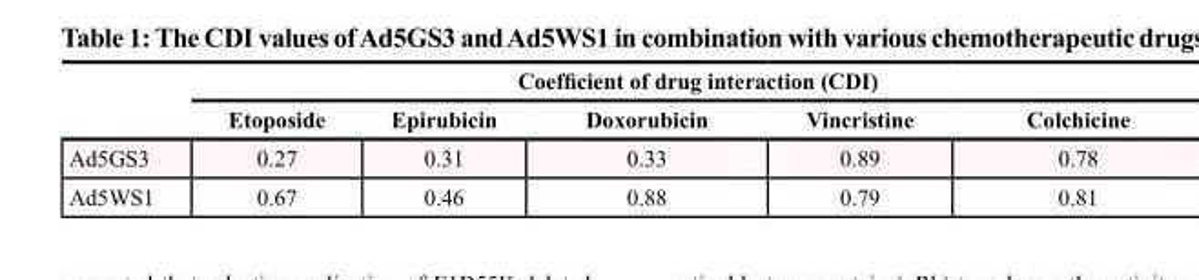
<table><thead><tr><td rowspan="2"></td><td colspan="5">Coefficient of drug interaction (CDI)</td></tr><tr><td>Etoposide</td><td>Epirubicin</td><td>Doxorubicin</td><td>Vincristine</td><td>Colchicine</td></tr></thead><tbody><tr><td>Ad5GS3</td><td>0.27</td><td>0.31</td><td>0.33</td><td>0.89</td><td>0.78</td></tr><tr><td>Ad5WS1</td><td>0.67</td><td>0.46</td><td>0.88</td><td>0.79</td><td>0.81</td></tr></tbody></table>